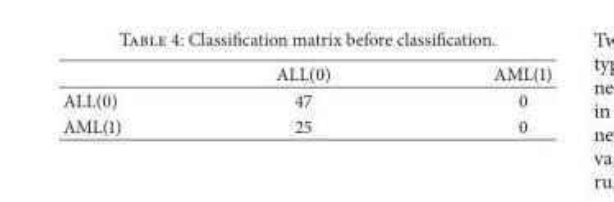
<table><thead><tr><td></td><td>ALL(0)</td><td>AML(1)</td></tr></thead><tbody><tr><td>ALL(0)</td><td>47</td><td>0</td></tr><tr><td>AML(1)</td><td>25</td><td>0</td></tr></tbody></table>